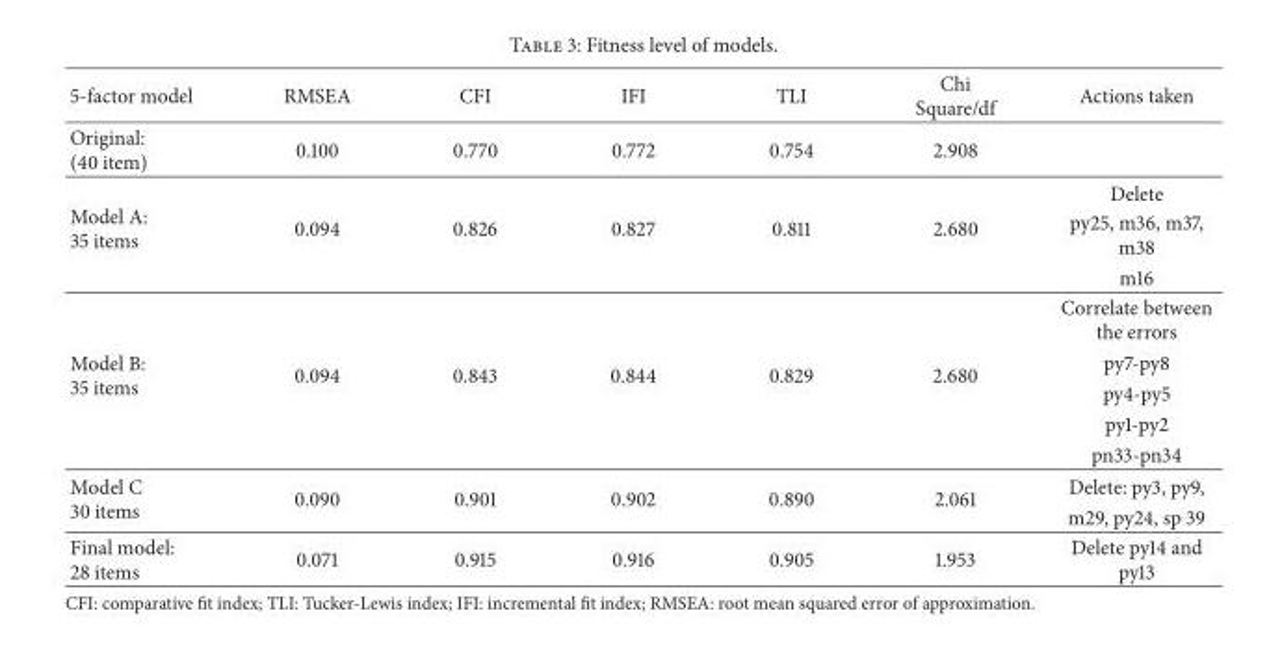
<table><thead><tr><td>5-factor model</td><td>RMSEA</td><td>CFI</td><td>IFI</td><td>TLI</td><td>Chi Square/df</td><td>Actions taken</td></tr></thead><tbody><tr><td>Original: (40 item)</td><td>0.100</td><td>0.770</td><td>0.772</td><td>0.754</td><td>2.908</td><td></td></tr><tr><td rowspan="3">Model A: 35 items</td><td rowspan="3">0.094</td><td rowspan="3">0.826</td><td rowspan="3">0.827</td><td rowspan="3">0.811</td><td rowspan="3">2.680</td><td>Delete</td></tr><tr><td>py25, m36, m37, m38</td></tr><tr><td>m16</td></tr><tr><td rowspan="5">Model B: 35 items</td><td rowspan="5">0.094</td><td rowspan="5">0.843</td><td rowspan="5">0.844</td><td rowspan="5">0.829</td><td rowspan="5">2.680</td><td>Correlate between the errors</td></tr><tr><td>py7-py8</td></tr><tr><td>py4-py5</td></tr><tr><td>py1-py2</td></tr><tr><td>pn33-pn34</td></tr><tr><td rowspan="2">Model C 30 items</td><td rowspan="2">0.090</td><td rowspan="2">0.901</td><td rowspan="2">0.902</td><td rowspan="2">0.890</td><td rowspan="2">2.061</td><td>Delete: py3, py9,</td></tr><tr><td>m29, py24, sp 39</td></tr><tr><td>Final model: 28 items</td><td>0.071</td><td>0.915</td><td>0.916</td><td>0.905</td><td>1.953</td><td>Delete py14 and py13</td></tr></tbody></table>